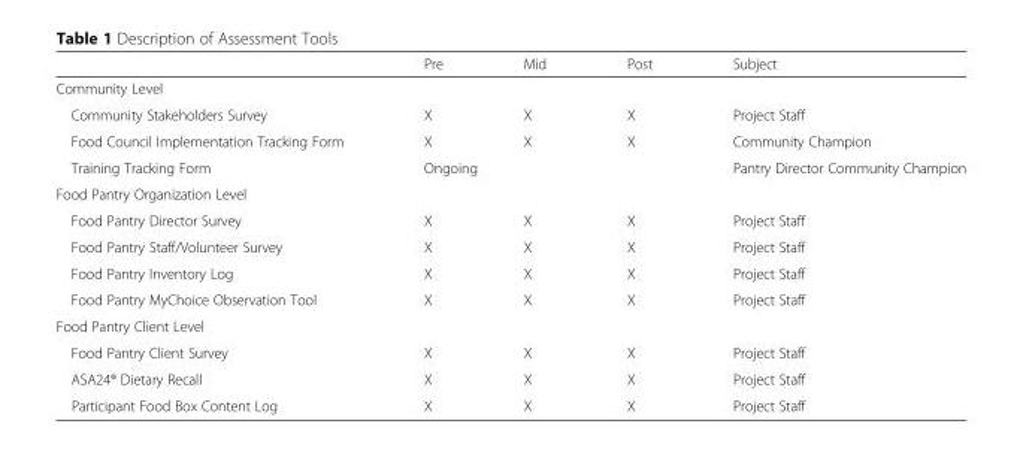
<table><thead><tr><td></td><td>Pre</td><td>Mid</td><td>Post</td><td>Subject</td></tr></thead><tbody><tr><td colspan="5">Community Level</td></tr><tr><td>Community Stakeholders Survey</td><td>X</td><td>X</td><td>X</td><td>Project Staff</td></tr><tr><td>Food Council Implementation Tracking Form</td><td>X</td><td>X</td><td>X</td><td>Community Champion</td></tr><tr><td>Training Tracking Form</td><td colspan="3">Ongoing</td><td>Pantry Director Community Champion</td></tr><tr><td colspan="5">Food Pantry Organization Level</td></tr><tr><td>Food Pantry Director Survey</td><td>X</td><td>X</td><td>X</td><td>Project Staff</td></tr><tr><td>Food Pantry Staff/Volunteer Survey</td><td>X</td><td>X</td><td>X</td><td>Project Staff</td></tr><tr><td>Food Pantry Inventory Log</td><td>X</td><td>X</td><td>X</td><td>Project Staff</td></tr><tr><td>Food Pantry MyChoice Observation Tool</td><td>X</td><td>X</td><td>X</td><td>Project Staff</td></tr><tr><td colspan="5">Food Pantry Client Level</td></tr><tr><td>Food Pantry Client Survey</td><td>X</td><td>X</td><td>X</td><td>Project Staff</td></tr><tr><td>ASA24® Dietary Recall</td><td>X</td><td>X</td><td>X</td><td>Project Staff</td></tr><tr><td>Participant Food Box Content Log</td><td>X</td><td>X</td><td>X</td><td>Project Staff</td></tr></tbody></table>